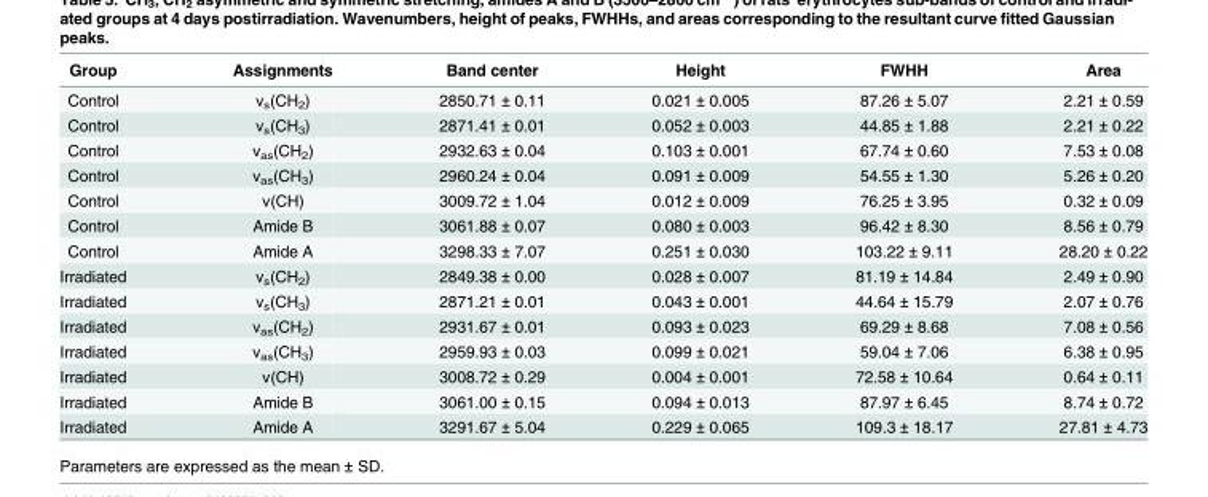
<table><thead><tr><td>Group</td><td>Assignments</td><td>Band center</td><td>Height</td><td>FWHH</td><td>Area</td></tr></thead><tbody><tr><td>Control</td><td>ν<sub>s</sub>(CH<sub>2</sub>)</td><td>2850.71 ± 0.11</td><td>0.021 ± 0.005</td><td>87.26 ± 5.07</td><td>2.21 ± 0.59</td></tr><tr><td>Control</td><td>ν<sub>s</sub>(CH<sub>3</sub>)</td><td>2871.41 ± 0.01</td><td>0.052 ± 0.003</td><td>44.85 ± 1.88</td><td>2.21 ± 0.22</td></tr><tr><td>Control</td><td>ν<sub>as</sub>(CH<sub>2</sub>)</td><td>2932.63 ± 0.04</td><td>0.103 ± 0.001</td><td>67.74 ± 0.60</td><td>7.53 ± 0.08</td></tr><tr><td>Control</td><td>ν<sub>as</sub>(CH<sub>3</sub>)</td><td>2960.24 ± 0.04</td><td>0.091 ± 0.009</td><td>54.55 ± 1.30</td><td>5.26 ± 0.20</td></tr><tr><td>Control</td><td>ν(CH)</td><td>3009.72 ± 1.04</td><td>0.012 ± 0.009</td><td>76.25 ± 3.95</td><td>0.32 ± 0.09</td></tr><tr><td>Control</td><td>Amide B</td><td>3061.88 ± 0.07</td><td>0.080 ± 0.003</td><td>96.42 ± 8.30</td><td>8.56 ± 0.79</td></tr><tr><td>Control</td><td>Amide A</td><td>3298.33 ± 7.07</td><td>0.251 ± 0.030</td><td>103.22 ± 9.11</td><td>28.20 ± 0.22</td></tr><tr><td>Irradiated</td><td>ν<sub>s</sub>(CH<sub>2</sub>)</td><td>2849.38 ± 0.00</td><td>0.028 ± 0.007</td><td>81.19 ± 14.84</td><td>2.49 ± 0.90</td></tr><tr><td>Irradiated</td><td>ν<sub>s</sub>(CH<sub>3</sub>)</td><td>2871.21 ± 0.01</td><td>0.043 ± 0.001</td><td>44.64 ± 15.79</td><td>2.07 ± 0.76</td></tr><tr><td>Irradiated</td><td>ν<sub>as</sub>(CH<sub>2</sub>)</td><td>2931.67 ± 0.01</td><td>0.093 ± 0.023</td><td>69.29 ± 8.68</td><td>7.08 ± 0.56</td></tr><tr><td>Irradiated</td><td>ν<sub>as</sub>(CH<sub>3</sub>)</td><td>2959.93 ± 0.03</td><td>0.099 ± 0.021</td><td>59.04 ± 7.06</td><td>6.38 ± 0.95</td></tr><tr><td>Irradiated</td><td>ν(CH)</td><td>3008.72 ± 0.29</td><td>0.004 ± 0.001</td><td>72.58 ± 10.64</td><td>0.64 ± 0.11</td></tr><tr><td>Irradiated</td><td>Amide B</td><td>3061.00 ± 0.15</td><td>0.094 ± 0.013</td><td>87.97 ± 6.45</td><td>8.74 ± 0.72</td></tr><tr><td>Irradiated</td><td>Amide A</td><td>3291.67 ± 5.04</td><td>0.229 ± 0.065</td><td>109.3 ± 18.17</td><td>27.81 ± 4.73</td></tr></tbody></table>